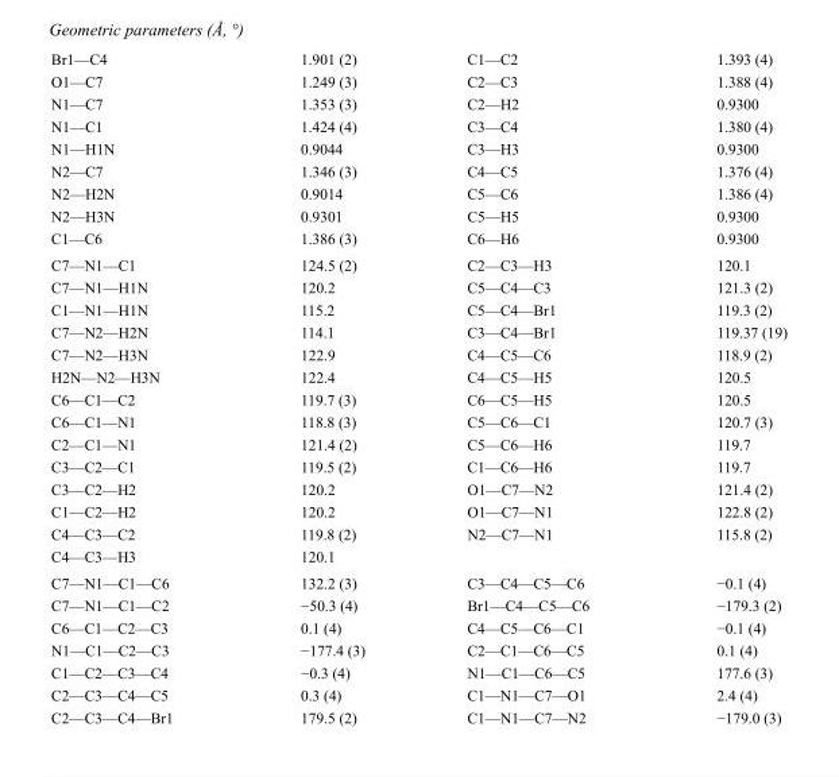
<table><tbody><tr><td>Br1—C4</td><td>1.901 (2)</td><td>C1—C2</td><td>1.393 (4)</td></tr><tr><td>O1—C7</td><td>1.249 (3)</td><td>C2—C3</td><td>1.388 (4)</td></tr><tr><td>N1—C7</td><td>1.353 (3)</td><td>C2—H2</td><td>0.9300</td></tr><tr><td>N1—C1</td><td>1.424 (4)</td><td>C3—C4</td><td>1.380 (4)</td></tr><tr><td>N1—H1N</td><td>0.9044</td><td>C3—H3</td><td>0.9300</td></tr><tr><td>N2—C7</td><td>1.346 (3)</td><td>C4—C5</td><td>1.376 (4)</td></tr><tr><td>N2—H2N</td><td>0.9014</td><td>C5—C6</td><td>1.386 (4)</td></tr><tr><td>N2—H3N</td><td>0.9301</td><td>C5—H5</td><td>0.9300</td></tr><tr><td>C1—C6</td><td>1.386 (3)</td><td>C6—H6</td><td>0.9300</td></tr><tr><td>C7—N1—C1</td><td>124.5 (2)</td><td>C2—C3—H3</td><td>120.1</td></tr><tr><td>C7—N1—H1N</td><td>120.2</td><td>C5—C4—C3</td><td>121.3 (2)</td></tr><tr><td>C1—N1—H1N</td><td>115.2</td><td>C5—C4—Br1</td><td>119.3 (2)</td></tr><tr><td>C7—N2—H2N</td><td>114.1</td><td>C3—C4—Br1</td><td>119.37 (19)</td></tr><tr><td>C7—N2—H3N</td><td>122.9</td><td>C4—C5—C6</td><td>118.9 (2)</td></tr><tr><td>H2N—N2—H3N</td><td>122.4</td><td>C4—C5—H5</td><td>120.5</td></tr><tr><td>C6—C1—C2</td><td>119.7 (3)</td><td>C6—C5—H5</td><td>120.5</td></tr><tr><td>C6—C1—N1</td><td>118.8 (3)</td><td>C5—C6—C1</td><td>120.7 (3)</td></tr><tr><td>C2—C1—N1</td><td>121.4 (2)</td><td>C5—C6—H6</td><td>119.7</td></tr><tr><td>C3—C2—C1</td><td>119.5 (2)</td><td>C1—C6—H6</td><td>119.7</td></tr><tr><td>C3—C2—H2</td><td>120.2</td><td>O1—C7—N2</td><td>121.4 (2)</td></tr><tr><td>C1—C2—H2</td><td>120.2</td><td>O1—C7—N1</td><td>122.8 (2)</td></tr><tr><td>C4—C3—C2</td><td>119.8 (2)</td><td>N2—C7—N1</td><td>115.8 (2)</td></tr><tr><td>C4—C3—H3</td><td>120.1</td><td></td><td></td></tr><tr><td>C7—N1—C1—C6</td><td>132.2 (3)</td><td>C3—C4—C5—C6</td><td>−0.1 (4)</td></tr><tr><td>C7—N1—C1—C2</td><td>−50.3 (4)</td><td>Br1—C4—C5—C6</td><td>−179.3 (2)</td></tr><tr><td>C6—C1—C2—C3</td><td>0.1 (4)</td><td>C4—C5—C6—C1</td><td>−0.1 (4)</td></tr><tr><td>N1—C1—C2—C3</td><td>−177.4 (3)</td><td>C2—C1—C6—C5</td><td>0.1 (4)</td></tr><tr><td>C1—C2—C3—C4</td><td>−0.3 (4)</td><td>N1—C1—C6—C5</td><td>177.6 (3)</td></tr><tr><td>C2—C3—C4—C5</td><td>0.3 (4)</td><td>C1—N1—C7—O1</td><td>2.4 (4)</td></tr><tr><td>C2—C3—C4—Br1</td><td>179.5 (2)</td><td>C1—N1—C7—N2</td><td>−179.0 (3)</td></tr></tbody></table>